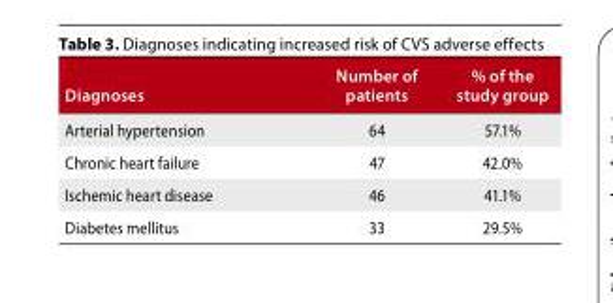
<table><thead><tr><td>Diagnoses</td><td>Number of patients</td><td>% of the study group</td></tr></thead><tbody><tr><td>Arterial hypertension</td><td>64</td><td>57.1%</td></tr><tr><td>Chronic heart failure</td><td>47</td><td>42.0%</td></tr><tr><td>Ischemic heart disease</td><td>46</td><td>41.1%</td></tr><tr><td>Diabetes mellitus</td><td>33</td><td>29.5%</td></tr></tbody></table>